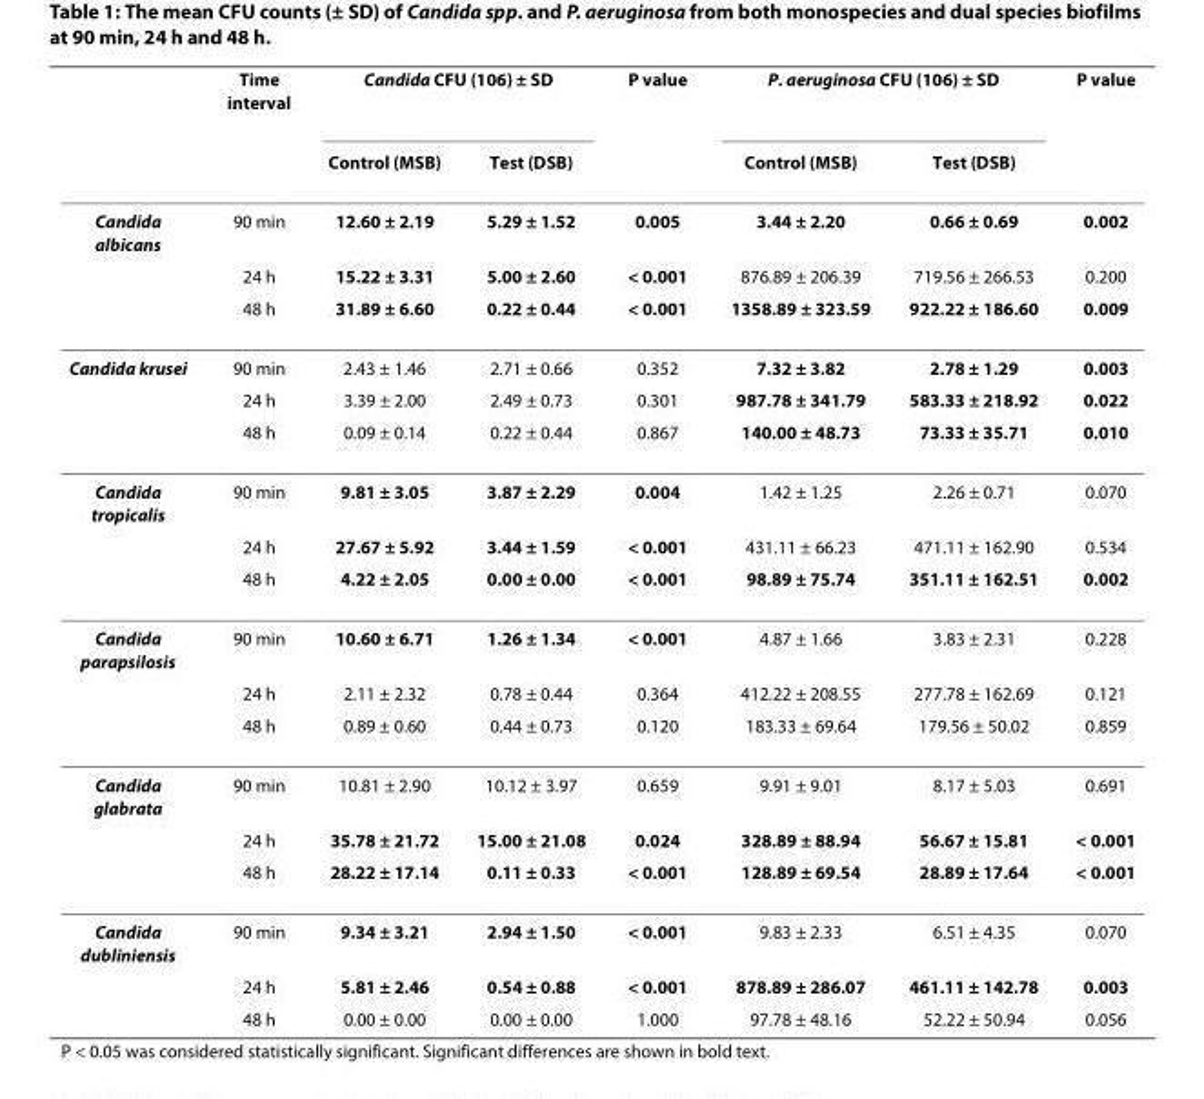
<table><thead><tr><td rowspan="2"></td><td rowspan="2">Time interval</td><td colspan="2">Candida CFU (10<sup>6</sup>) ± SD</td><td rowspan="2">P value</td><td colspan="2">P. aeruginosa CFU (10<sup>6</sup>) ± SD</td><td rowspan="2">P value</td></tr><tr><td>Control (MSB)</td><td>Test (DSB)</td><td>Control (MSB)</td><td>Test (DSB)</td></tr></thead><tbody><tr><td rowspan="3">Candida albicans</td><td>90 min</td><td>12.60 ± 2.19</td><td>5.29 ± 1.52</td><td>0.005</td><td>3.44 ± 2.20</td><td>0.66 ± 0.69</td><td>0.002</td></tr><tr><td>24 h</td><td>15.22 ± 3.31</td><td>5.00 ± 2.60</td><td>&lt; 0.001</td><td>876.89 ± 206.39</td><td>719.56 ± 266.53</td><td>0.200</td></tr><tr><td>48 h</td><td>31.89 ± 6.60</td><td>0.22 ± 0.44</td><td>&lt; 0.001</td><td>1358.89 ± 323.59</td><td>922.22 ± 186.60</td><td>0.009</td></tr><tr><td rowspan="3">Candida krusei</td><td>90 min</td><td>2.43 ± 1.46</td><td>2.71 ± 0.66</td><td>0.352</td><td>7.32 ± 3.82</td><td>2.78 ± 1.29</td><td>0.003</td></tr><tr><td>24 h</td><td>3.39 ± 2.00</td><td>2.49 ± 0.73</td><td>0.301</td><td>987.78 ± 341.79</td><td>583.33 ± 218.92</td><td>0.022</td></tr><tr><td>48 h</td><td>0.09 ± 0.14</td><td>0.22 ± 0.44</td><td>0.867</td><td>140.00 ± 48.73</td><td>73.33 ± 35.71</td><td>0.010</td></tr><tr><td rowspan="3">Candida tropicalis</td><td>90 min</td><td>9.81 ± 3.05</td><td>3.87 ± 2.29</td><td>0.004</td><td>1.42 ± 1.25</td><td>2.26 ± 0.71</td><td>0.070</td></tr><tr><td>24 h</td><td>27.67 ± 5.92</td><td>3.44 ± 1.59</td><td>&lt; 0.001</td><td>431.11 ± 66.23</td><td>471.11 ± 162.90</td><td>0.534</td></tr><tr><td>48 h</td><td>4.22 ± 2.05</td><td>0.00 ± 0.00</td><td>&lt; 0.001</td><td>98.89 ± 75.74</td><td>351.11 ± 162.51</td><td>0.002</td></tr><tr><td rowspan="3">Candida parapsilosis</td><td>90 min</td><td>10.60 ± 6.71</td><td>1.26 ± 1.34</td><td>&lt; 0.001</td><td>4.87 ± 1.66</td><td>3.83 ± 2.31</td><td>0.228</td></tr><tr><td>24 h</td><td>2.11 ± 2.32</td><td>0.78 ± 0.44</td><td>0.364</td><td>412.22 ± 208.55</td><td>277.78 ± 162.69</td><td>0.121</td></tr><tr><td>48 h</td><td>0.89 ± 0.60</td><td>0.44 ± 0.73</td><td>0.120</td><td>183.33 ± 69.64</td><td>179.56 ± 50.02</td><td>0.859</td></tr><tr><td rowspan="3">Candida glabrata</td><td>90 min</td><td>10.81 ± 2.90</td><td>10.12 ± 3.97</td><td>0.659</td><td>9.91 ± 9.01</td><td>8.17 ± 5.03</td><td>0.691</td></tr><tr><td>24 h</td><td>35.78 ± 21.72</td><td>15.00 ± 21.08</td><td>0.024</td><td>328.89 ± 88.94</td><td>56.67 ± 15.81</td><td>&lt; 0.001</td></tr><tr><td>48 h</td><td>28.22 ± 17.14</td><td>0.11 ± 0.33</td><td>&lt; 0.001</td><td>128.89 ± 69.54</td><td>28.89 ± 17.64</td><td>&lt; 0.001</td></tr><tr><td rowspan="3">Candida dubliniensis</td><td>90 min</td><td>9.34 ± 3.21</td><td>2.94 ± 1.50</td><td>&lt; 0.001</td><td>9.83 ± 2.33</td><td>6.51 ± 4.35</td><td>0.070</td></tr><tr><td>24 h</td><td>5.81 ± 2.46</td><td>0.54 ± 0.88</td><td>&lt; 0.001</td><td>878.89 ± 286.07</td><td>461.11 ± 142.78</td><td>0.003</td></tr><tr><td>48 h</td><td>0.00 ± 0.00</td><td>0.00 ± 0.00</td><td>1.000</td><td>97.78 ± 48.16</td><td>52.22 ± 50.94</td><td>0.056</td></tr></tbody></table>